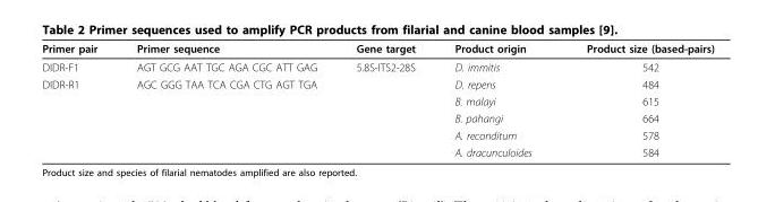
<table><thead><tr><td>Primer pair</td><td>Primer sequence</td><td>Gene target</td><td>Product origin</td><td>Product size (based-pairs)</td></tr></thead><tbody><tr><td>DIDR-F1</td><td>AGT GCG AAT TGC AGA CGC ATT GAG</td><td>5.8S-ITS2-28S</td><td>D. immitis</td><td>542</td></tr><tr><td rowspan="5">DIDR-R1</td><td>AGC GGG TAA TCA CGA CTG AGT TGA</td><td></td><td>D. repens</td><td>484</td></tr><tr><td></td><td></td><td>B. malayi</td><td>615</td></tr><tr><td></td><td></td><td>B. pahangi</td><td>664</td></tr><tr><td></td><td></td><td>A. reconditum</td><td>578</td></tr><tr><td></td><td></td><td>A. dracunculoides</td><td>584</td></tr></tbody></table>